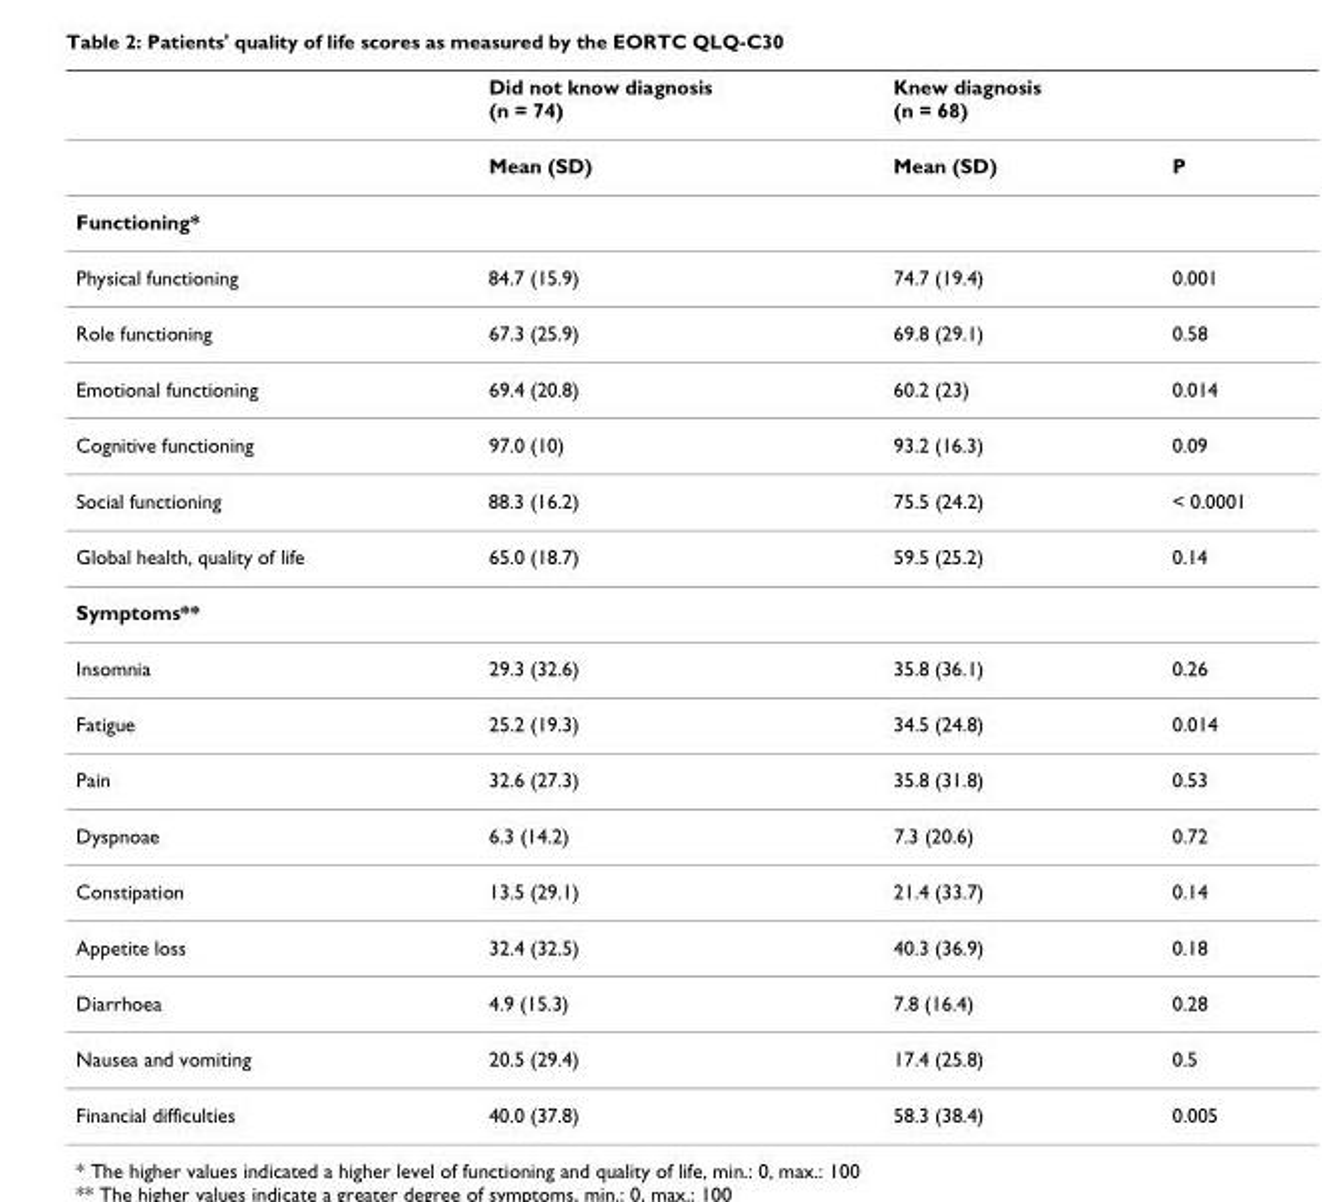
<table><thead><tr><td></td><td>Did not know diagnosis (n = 74)</td><td>Knew diagnosis (n = 68)</td><td></td></tr></thead><tbody><tr><td></td><td>Mean (SD)</td><td>Mean (SD)</td><td>P</td></tr><tr><td colspan="4">Functioning*</td></tr><tr><td>Physical functioning</td><td>84.7 (15.9)</td><td>74.7 (19.4)</td><td>0.001</td></tr><tr><td>Role functioning</td><td>67.3 (25.9)</td><td>69.8 (29.1)</td><td>0.58</td></tr><tr><td>Emotional functioning</td><td>69.4 (20.8)</td><td>60.2 (23)</td><td>0.014</td></tr><tr><td>Cognitive functioning</td><td>97.0 (10)</td><td>93.2 (16.3)</td><td>0.09</td></tr><tr><td>Social functioning</td><td>88.3 (16.2)</td><td>75.5 (24.2)</td><td>&lt; 0.0001</td></tr><tr><td>Global health, quality of life</td><td>65.0 (18.7)</td><td>59.5 (25.2)</td><td>0.14</td></tr><tr><td colspan="4">Symptoms**</td></tr><tr><td>Insomnia</td><td>29.3 (32.6)</td><td>35.8 (36.1)</td><td>0.26</td></tr><tr><td>Fatigue</td><td>25.2 (19.3)</td><td>34.5 (24.8)</td><td>0.014</td></tr><tr><td>Pain</td><td>32.6 (27.3)</td><td>35.8 (31.8)</td><td>0.53</td></tr><tr><td>Dyspnoae</td><td>6.3 (14.2)</td><td>7.3 (20.6)</td><td>0.72</td></tr><tr><td>Constipation</td><td>13.5 (29.1)</td><td>21.4 (33.7)</td><td>0.14</td></tr><tr><td>Appetite loss</td><td>32.4 (32.5)</td><td>40.3 (36.9)</td><td>0.18</td></tr><tr><td>Diarrhoea</td><td>4.9 (15.3)</td><td>7.8 (16.4)</td><td>0.28</td></tr><tr><td>Nausea and vomiting</td><td>20.5 (29.4)</td><td>17.4 (25.8)</td><td>0.5</td></tr><tr><td>Financial difficulties</td><td>40.0 (37.8)</td><td>58.3 (38.4)</td><td>0.005</td></tr></tbody></table>